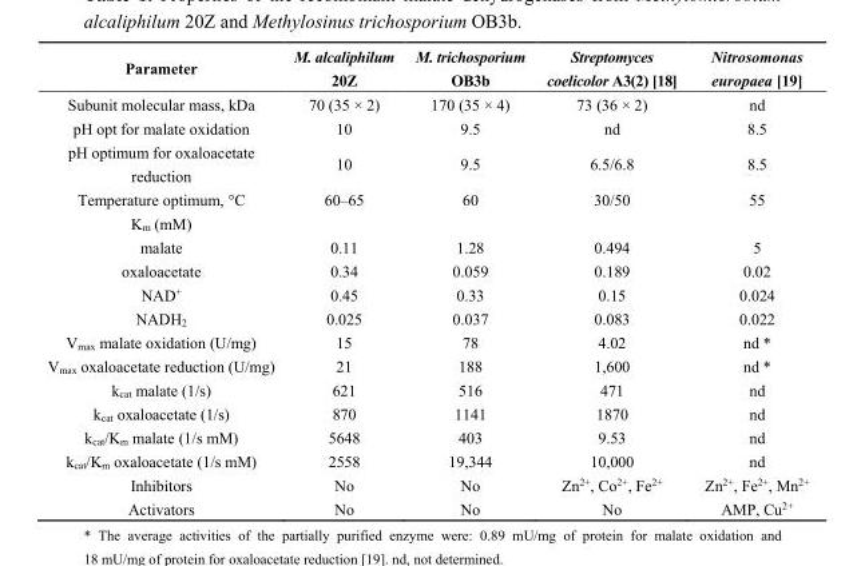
<table><thead><tr><td>Parameter</td><td>M. alcaliphilum 20Z</td><td>M. trichosporium OB3b</td><td>Streptomyces coelicolor A3(2) [18]</td><td>Nitrosomonas europaea [19]</td></tr></thead><tbody><tr><td>Subunit molecular mass, kDa</td><td>70 (35 × 2)</td><td>170 (35 × 4)</td><td>73 (36 × 2)</td><td>nd</td></tr><tr><td>pH opt for malate oxidation</td><td>10</td><td>9.5</td><td>nd</td><td>8.5</td></tr><tr><td>pH optimum for oxaloacetate reduction</td><td>10</td><td>9.5</td><td>6.5/6.8</td><td>8.5</td></tr><tr><td>Temperature optimum, °C</td><td>60–65</td><td>60</td><td>30/50</td><td>55</td></tr><tr><td colspan="5">K<sub>m</sub> (mM)</td></tr><tr><td>malate</td><td>0.11</td><td>1.28</td><td>0.494</td><td>5</td></tr><tr><td>oxaloacetate</td><td>0.34</td><td>0.059</td><td>0.189</td><td>0.02</td></tr><tr><td>NAD<sup>+</sup></td><td>0.45</td><td>0.33</td><td>0.15</td><td>0.024</td></tr><tr><td>NADH<sub>2</sub></td><td>0.025</td><td>0.037</td><td>0.083</td><td>0.022</td></tr><tr><td>V<sub>max</sub> malate oxidation (U/mg)</td><td>15</td><td>78</td><td>4.02</td><td>nd *</td></tr><tr><td>V<sub>max</sub> oxaloacetate reduction (U/mg)</td><td>21</td><td>188</td><td>1,600</td><td>nd *</td></tr><tr><td>k<sub>cat</sub> malate (1/s)</td><td>621</td><td>516</td><td>471</td><td>nd</td></tr><tr><td>k<sub>cat</sub> oxaloacetate (1/s)</td><td>870</td><td>1141</td><td>1870</td><td>nd</td></tr><tr><td>k<sub>cat</sub>/K<sub>m</sub> malate (1/s mM)</td><td>5648</td><td>403</td><td>9.53</td><td>nd</td></tr><tr><td>k<sub>cat</sub>/K<sub>m</sub> oxaloacetate (1/s mM)</td><td>2558</td><td>19,344</td><td>10,000</td><td>nd</td></tr><tr><td>Inhibitors</td><td>No</td><td>No</td><td>Zn<sup>2+</sup>, Со<sup>2+</sup>, Fe<sup>2+</sup></td><td>Zn<sup>2+</sup>, Fe<sup>2+</sup>, Mn<sup>2+</sup></td></tr><tr><td>Activators</td><td>No</td><td>No</td><td>No</td><td>AMP, Cu<sup>2+</sup></td></tr></tbody></table>